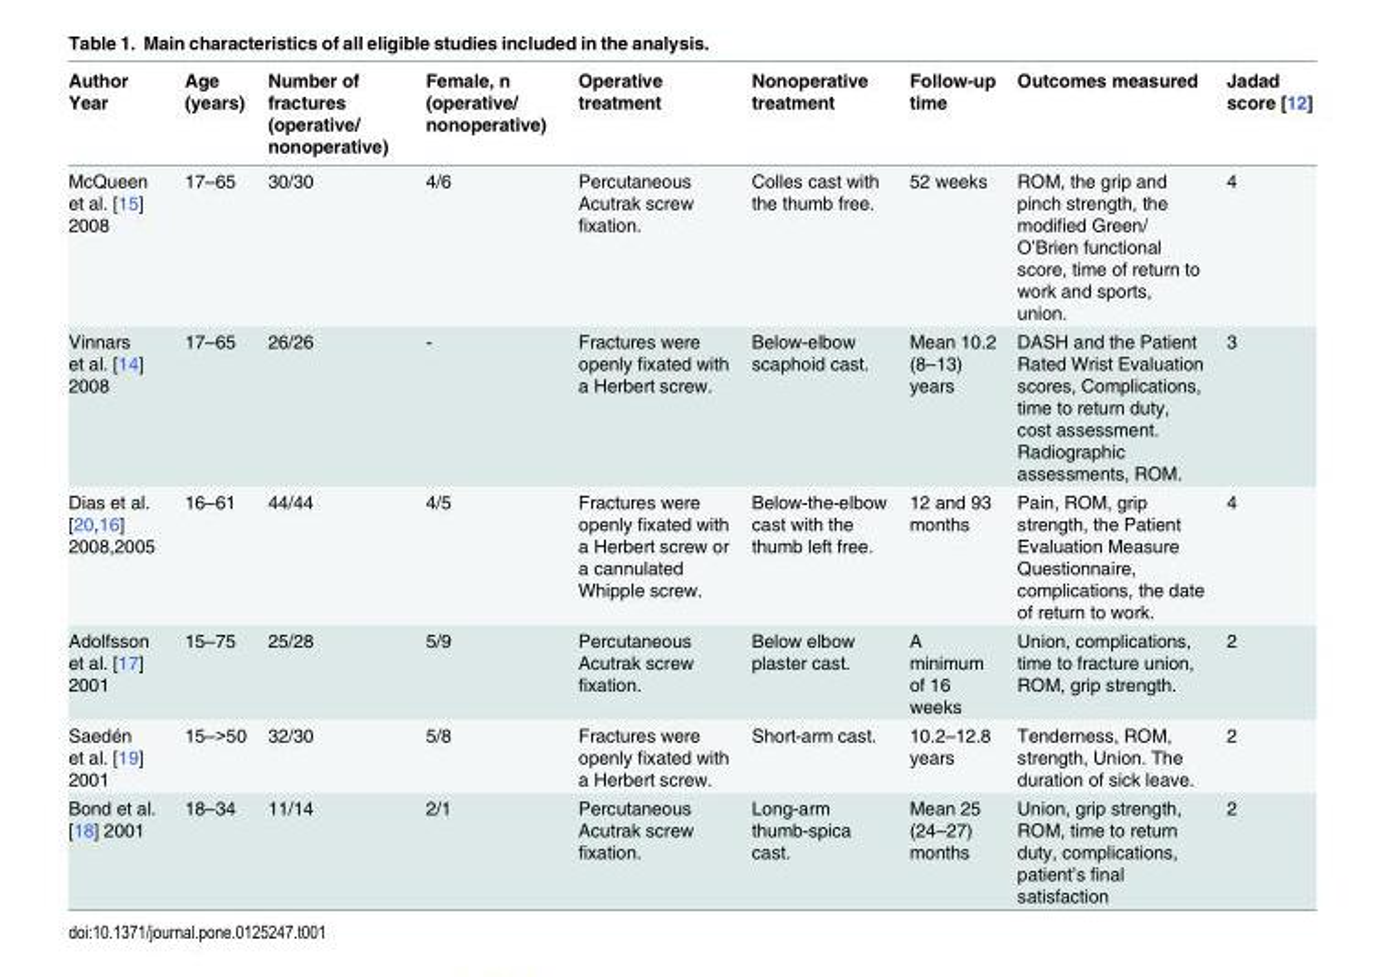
<table><thead><tr><td>Author Year</td><td>Age (years)</td><td>Number of fractures (operative/ nonoperative)</td><td>Female, n (operative/ nonoperative)</td><td>Operative treatment</td><td>Nonoperative treatment</td><td>Follow-up time</td><td>Outcomes measured</td><td>Jadad score [12]</td></tr></thead><tbody><tr><td>McQueen et al. [15] 2008</td><td>17–65</td><td>30/30</td><td>4/6</td><td>Percutaneous Acutrak screw fixation.</td><td>Colles cast with the thumb free.</td><td>52 weeks</td><td>ROM, the grip and pinch strength, the modified Green/ O’Brien functional score, time of return to work and sports, union.</td><td>4</td></tr><tr><td>Vinnars et al. [14] 2008</td><td>17–65</td><td>26/26</td><td>-</td><td>Fractures were openly fixated with a Herbert screw.</td><td>Below-elbow scaphoid cast.</td><td>Mean 10.2 (8–13) years</td><td>DASH and the Patient Rated Wrist Evaluation scores, Complications, time to return duty, cost assessment. Radiographic assessments, ROM.</td><td>3</td></tr><tr><td>Dias et al. [20,16] 2008,2005</td><td>16–61</td><td>44/44</td><td>4/5</td><td>Fractures were openly fixated with a Herbert screw or a cannulated Whipple screw.</td><td>Below-the-elbow cast with the thumb left free.</td><td>12 and 93 months</td><td>Pain, ROM, grip strength, the Patient Evaluation Measure Questionnaire, complications, the date of return to work.</td><td>4</td></tr><tr><td>Adolfsson et al. [17] 2001</td><td>15–75</td><td>25/28</td><td>5/9</td><td>Percutaneous Acutrak screw fixation.</td><td>Below elbow plaster cast.</td><td>A minimum of 16 weeks</td><td>Union, complications, time to fracture union, ROM, grip strength.</td><td>2</td></tr><tr><td>Saedén et al. [19] 2001</td><td>15–&gt;50</td><td>32/30</td><td>5/8</td><td>Fractures were openly fixated with a Herbert screw.</td><td>Short-arm cast.</td><td>10.2–12.8 years</td><td>Tenderness, ROM, strength, Union. The duration of sick leave.</td><td>2</td></tr><tr><td>Bond et al. [18] 2001</td><td>18–34</td><td>11/14</td><td>2/1</td><td>Percutaneous Acutrak screw fixation.</td><td>Long-arm thumb-spica cast.</td><td>Mean 25 (24–27) months</td><td>Union, grip strength, ROM, time to return duty, complications, patient’s final satisfaction</td><td>2</td></tr></tbody></table>